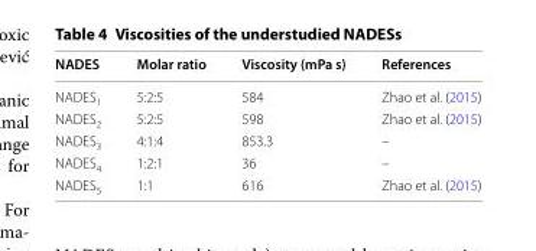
<table><thead><tr><td>NADES</td><td>Molar ratio</td><td>Viscosity (mPa s)</td><td>References</td></tr></thead><tbody><tr><td>NADES<sub>1</sub></td><td>5:2:5</td><td>584</td><td>Zhao et al. (2015)</td></tr><tr><td>NADES<sub>2</sub></td><td>5:2:5</td><td>598</td><td>Zhao et al. (2015)</td></tr><tr><td>NADES<sub>3</sub></td><td>4:1:4</td><td>853.3</td><td>–</td></tr><tr><td>NADES<sub>4</sub></td><td>1:2:1</td><td>36</td><td>–</td></tr><tr><td>NADES<sub>5</sub></td><td>1:1</td><td>616</td><td>Zhao et al. (2015)</td></tr></tbody></table>